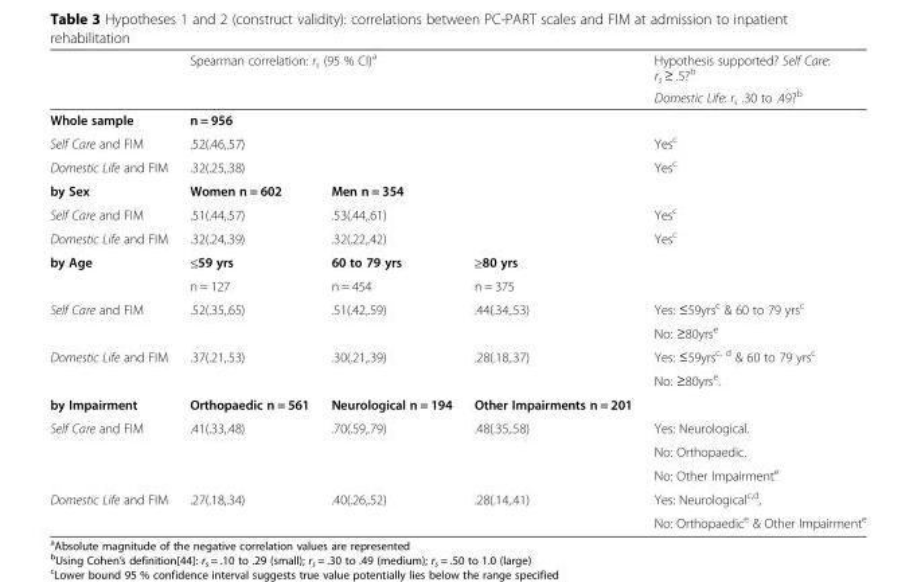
<table><thead><tr><td rowspan="2"></td><td rowspan="2" colspan="3">Spearman correlation: r<sub>s</sub> (95 % CI)<sup>a</sup></td><td rowspan="2">Hypothesis supported? Self Care: r<sub>s</sub> ≥ .5?<sup>b</sup> Domestic Life: r<sub>s</sub> .30 to .49?<sup>b</sup></td></tr><tr></tr></thead><tbody><tr><td>Whole sample</td><td>n = 956</td><td colspan="2"></td><td></td></tr><tr><td>Self Care and FIM</td><td>.52(.46,.57)</td><td colspan="2"></td><td>Yes<sup>c</sup></td></tr><tr><td>Domestic Life and FIM</td><td>.32(.25,.38)</td><td colspan="2"></td><td>Yes<sup>c</sup></td></tr><tr><td>by Sex</td><td>Women n = 602</td><td colspan="2">Men n = 354</td><td></td></tr><tr><td>Self Care and FIM</td><td>.51(.44,.57)</td><td colspan="2">.53(.44,.61)</td><td>Yes<sup>c</sup></td></tr><tr><td>Domestic Life and FIM</td><td>.32(.24,.39)</td><td colspan="2">.32(.22,.42)</td><td>Yes<sup>c</sup></td></tr><tr><td rowspan="2">by Age</td><td>≤59 yrs</td><td>60 to 79 yrs</td><td>≥80 yrs</td><td></td></tr><tr><td>n = 127</td><td>n = 454</td><td>n = 375</td><td></td></tr><tr><td rowspan="2">Self Care and FIM</td><td rowspan="2">.52(.35,.65)</td><td rowspan="2">.51(.42,.59)</td><td rowspan="2">.44(.34,.53)</td><td>Yes: ≤59yrs<sup>c</sup> &amp; 60 to 79 yrs<sup>c</sup></td></tr><tr><td>No: ≥80yrs<sup>e</sup></td></tr><tr><td rowspan="2">Domestic Life and FIM</td><td rowspan="2">.37(.21,.53)</td><td rowspan="2">.30(.21,.39)</td><td rowspan="2">.28(.18,.37)</td><td>Yes: ≤59yrs<sup>c, d</sup> &amp; 60 to 79 yrs<sup>c</sup></td></tr><tr><td>No: ≥80yrs<sup>e</sup>.</td></tr><tr><td>by Impairment</td><td>Orthopaedic n = 561</td><td>Neurological n = 194</td><td>Other Impairments n = 201</td><td></td></tr><tr><td rowspan="3">Self Care and FIM</td><td rowspan="3">.41(.33,.48)</td><td rowspan="3">.70(.59,.79)</td><td rowspan="3">.48(.35,.58)</td><td>Yes: Neurological.</td></tr><tr><td>No: Orthopaedic.</td></tr><tr><td>No: Other Impairment<sup>e</sup></td></tr><tr><td rowspan="2">Domestic Life and FIM</td><td rowspan="2">.27(.18,.34)</td><td rowspan="2">.40(.26,.52)</td><td rowspan="2">.28(.14,.41)</td><td>Yes: Neurological<sup>c,d</sup>,</td></tr><tr><td>No: Orthopaedic<sup>e</sup> &amp; Other Impairment<sup>e</sup></td></tr></tbody></table>